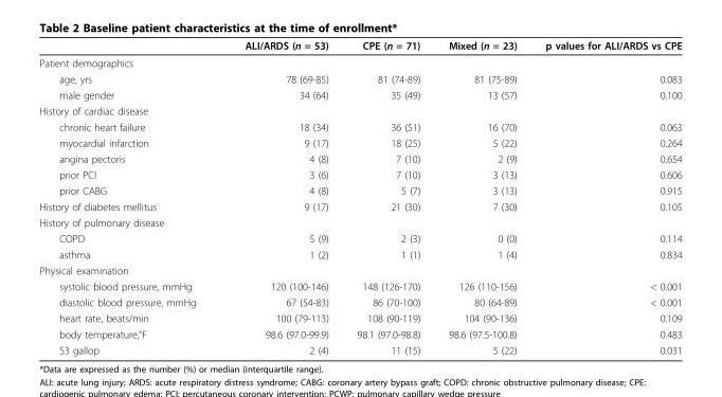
<table><thead><tr><td></td><td>ALI/ARDS (n = 53)</td><td>CPE (n = 71)</td><td>Mixed (n = 23)</td><td>p values for ALI/ARDS vs CPE</td></tr></thead><tbody><tr><td colspan="5">Patient demographics</td></tr><tr><td>age, yrs</td><td>78 (69-85)</td><td>81 (74-89)</td><td>81 (75-89)</td><td>0.083</td></tr><tr><td>male gender</td><td>34 (64)</td><td>35 (49)</td><td>13 (57)</td><td>0.100</td></tr><tr><td colspan="5">History of cardiac disease</td></tr><tr><td>chronic heart failure</td><td>18 (34)</td><td>36 (51)</td><td>16 (70)</td><td>0.063</td></tr><tr><td>myocardial infarction</td><td>9 (17)</td><td>18 (25)</td><td>5 (22)</td><td>0.264</td></tr><tr><td>angina pectoris</td><td>4 (8)</td><td>7 (10)</td><td>2 (9)</td><td>0.654</td></tr><tr><td>prior PCI</td><td>3 (6)</td><td>7 (10)</td><td>3 (13)</td><td>0.606</td></tr><tr><td>prior CABG</td><td>4 (8)</td><td>5 (7)</td><td>3 (13)</td><td>0.915</td></tr><tr><td>History of diabetes mellitus</td><td>9 (17)</td><td>21 (30)</td><td>7 (30)</td><td>0.105</td></tr><tr><td colspan="5">History of pulmonary disease</td></tr><tr><td>COPD</td><td>5 (9)</td><td>2 (3)</td><td>0 (0)</td><td>0.114</td></tr><tr><td>asthma</td><td>1 (2)</td><td>1 (1)</td><td>1 (4)</td><td>0.834</td></tr><tr><td colspan="5">Physical examination</td></tr><tr><td>systolic blood pressure, mmHg</td><td>120 (100-146)</td><td>148 (126-170)</td><td>126 (110-156)</td><td>&lt; 0.001</td></tr><tr><td>diastolic blood pressure, mmHg</td><td>67 (54-83)</td><td>86 (70-100)</td><td>80 (64-89)</td><td>&lt; 0.001</td></tr><tr><td>heart rate, beats/min</td><td>100 (79-113)</td><td>108 (90-119)</td><td>104 (90-136)</td><td>0.109</td></tr><tr><td>body temperature,°F</td><td>98.6 (97.0-99.9)</td><td>98.1 (97.0-98.8)</td><td>98.6 (97.5-100.8)</td><td>0.483</td></tr><tr><td>S3 gallop</td><td>2 (4)</td><td>11 (15)</td><td>5 (22)</td><td>0.031</td></tr></tbody></table>